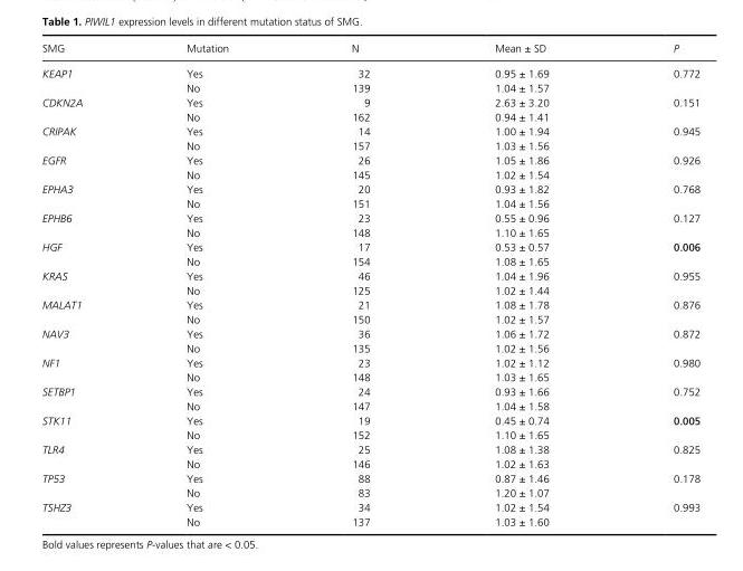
<table><thead><tr><td>SMG</td><td>Mutation</td><td>N</td><td>Mean ± SD</td><td>P</td></tr></thead><tbody><tr><td rowspan="2">KEAP1</td><td>Yes</td><td>32</td><td>0.95 ± 1.69</td><td rowspan="2">0.772</td></tr><tr><td>No</td><td>139</td><td>1.04 ± 1.57</td></tr><tr><td rowspan="2">CDKN2A</td><td>Yes</td><td>9</td><td>2.63 ± 3.20</td><td rowspan="2">0.151</td></tr><tr><td>No</td><td>162</td><td>0.94 ± 1.41</td></tr><tr><td rowspan="2">CRIPAK</td><td>Yes</td><td>14</td><td>1.00 ± 1.94</td><td rowspan="2">0.945</td></tr><tr><td>No</td><td>157</td><td>1.03 ± 1.56</td></tr><tr><td rowspan="2">EGFR</td><td>Yes</td><td>26</td><td>1.05 ± 1.86</td><td rowspan="2">0.926</td></tr><tr><td>No</td><td>145</td><td>1.02 ± 1.54</td></tr><tr><td rowspan="2">EPHA3</td><td>Yes</td><td>20</td><td>0.93 ± 1.82</td><td rowspan="2">0.768</td></tr><tr><td>No</td><td>151</td><td>1.04 ± 1.56</td></tr><tr><td rowspan="2">EPHB6</td><td>Yes</td><td>23</td><td>0.55 ± 0.96</td><td rowspan="2">0.127</td></tr><tr><td>No</td><td>148</td><td>1.10 ± 1.65</td></tr><tr><td rowspan="2">HGF</td><td>Yes</td><td>17</td><td>0.53 ± 0.57</td><td rowspan="2">0.006</td></tr><tr><td>No</td><td>154</td><td>1.08 ± 1.65</td></tr><tr><td rowspan="2">KRAS</td><td>Yes</td><td>46</td><td>1.04 ± 1.96</td><td rowspan="2">0.955</td></tr><tr><td>No</td><td>125</td><td>1.02 ± 1.44</td></tr><tr><td rowspan="2">MALAT1</td><td>Yes</td><td>21</td><td>1.08 ± 1.78</td><td rowspan="2">0.876</td></tr><tr><td>No</td><td>150</td><td>1.02 ± 1.57</td></tr><tr><td rowspan="2">NAV3</td><td>Yes</td><td>36</td><td>1.06 ± 1.72</td><td rowspan="2">0.872</td></tr><tr><td>No</td><td>135</td><td>1.02 ± 1.56</td></tr><tr><td rowspan="2">NF1</td><td>Yes</td><td>23</td><td>1.02 ± 1.12</td><td rowspan="2">0.980</td></tr><tr><td>No</td><td>148</td><td>1.03 ± 1.65</td></tr><tr><td rowspan="2">SETBP1</td><td>Yes</td><td>24</td><td>0.93 ± 1.66</td><td rowspan="2">0.752</td></tr><tr><td>No</td><td>147</td><td>1.04 ± 1.58</td></tr><tr><td rowspan="2">STK11</td><td>Yes</td><td>19</td><td>0.45 ± 0.74</td><td rowspan="2">0.005</td></tr><tr><td>No</td><td>152</td><td>1.10 ± 1.65</td></tr><tr><td rowspan="2">TLR4</td><td>Yes</td><td>25</td><td>1.08 ± 1.38</td><td rowspan="2">0.825</td></tr><tr><td>No</td><td>146</td><td>1.02 ± 1.63</td></tr><tr><td rowspan="2">TP53</td><td>Yes</td><td>88</td><td>0.87 ± 1.46</td><td rowspan="2">0.178</td></tr><tr><td>No</td><td>83</td><td>1.20 ± 1.07</td></tr><tr><td rowspan="2">TSHZ3</td><td>Yes</td><td>34</td><td>1.02 ± 1.54</td><td rowspan="2">0.993</td></tr><tr><td>No</td><td>137</td><td>1.03 ± 1.60</td></tr></tbody></table>